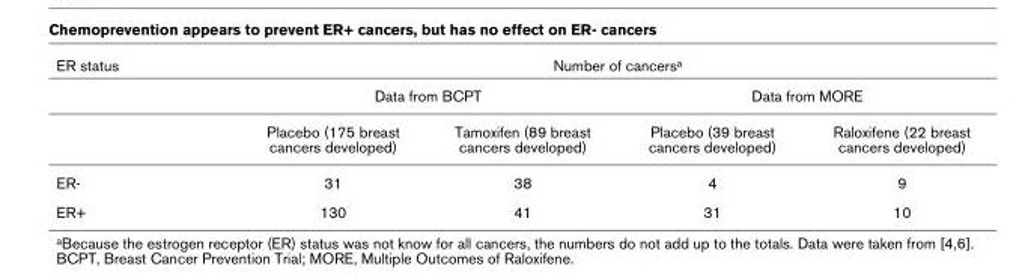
<table><thead><tr><td rowspan="3">ER status</td><td colspan="4">Number of cancersa</td></tr><tr><td colspan="2">Data from BCPT</td><td colspan="2">Data from MORE</td></tr><tr><td>Placebo (175 breast cancers developed)</td><td>Tamoxifen (89 breast cancers developed)</td><td>Placebo (39 breast cancers developed)</td><td>Raloxifene (22 breast cancers developed)</td></tr></thead><tbody><tr><td>ER-</td><td>31</td><td>38</td><td>4</td><td>9</td></tr><tr><td>ER+</td><td>130</td><td>41</td><td>31</td><td>10</td></tr></tbody></table>